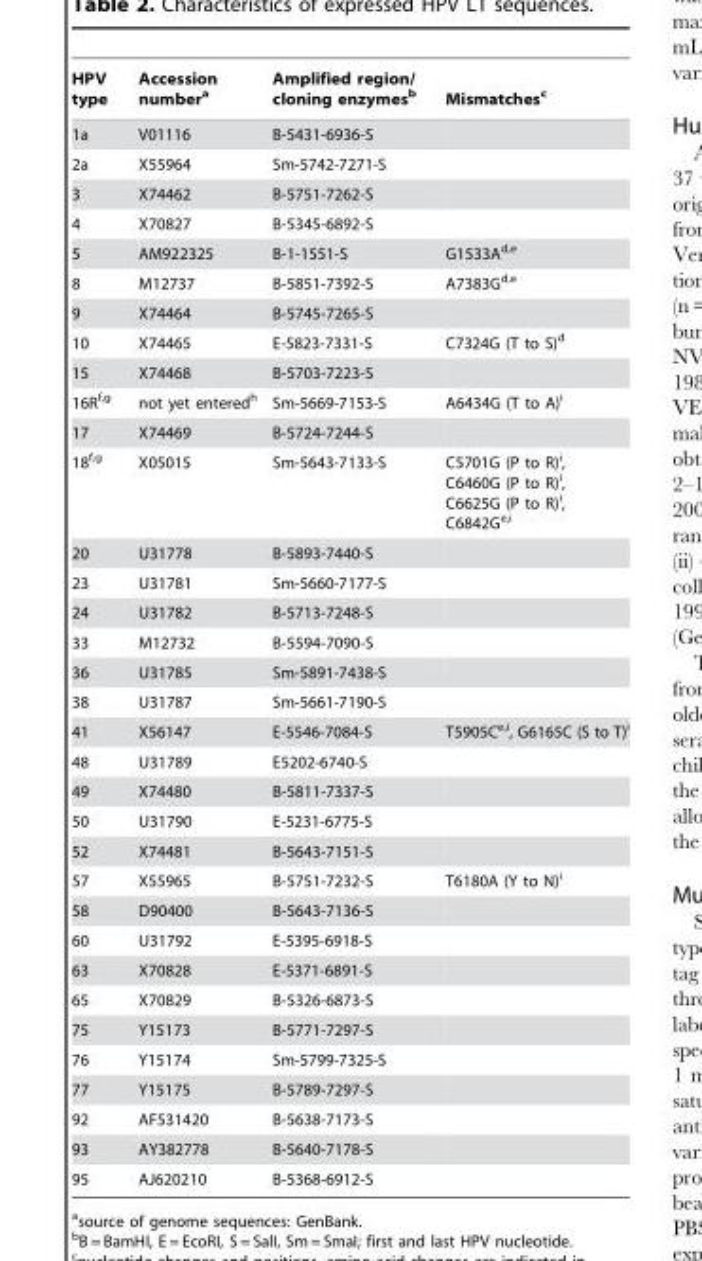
<table><thead><tr><td>HPV type</td><td>Accession number<sup>a</sup></td><td>Amplified region/ cloning enzymes<sup>b</sup></td><td>Mismatches<sup>c</sup></td></tr></thead><tbody><tr><td>1a</td><td>V01116</td><td>B-5431-6936-S</td><td></td></tr><tr><td>2a</td><td>X55964</td><td>Sm-5742-7271-S</td><td></td></tr><tr><td>3</td><td>X74462</td><td>B-5751-7262-S</td><td></td></tr><tr><td>4</td><td>X70827</td><td>B-5345-6892-S</td><td></td></tr><tr><td>5</td><td>AM922325</td><td>B-1-1551-S</td><td>G1533A<sup>d</sup>,<sup>e</sup></td></tr><tr><td>8</td><td>M12737</td><td>B-5851-7392-S</td><td>A7383G<sup>d</sup>,<sup>e</sup></td></tr><tr><td>9</td><td>X74464</td><td>B-5745-7265-S</td><td></td></tr><tr><td>10</td><td>X74465</td><td>E-5823-7331-S</td><td>C7324G (T to S)<sup>d</sup></td></tr><tr><td>15</td><td>X74468</td><td>B-5703-7223-S</td><td></td></tr><tr><td>16R<sup>f</sup>,<sup>g</sup></td><td>not yet entered<sup>h</sup></td><td>Sm-5669-7153-S</td><td>A6434G (T to A)<sup>i</sup></td></tr><tr><td>17</td><td>X74469</td><td>B-5724-7244-S</td><td></td></tr><tr><td>18<sup>f</sup>,<sup>g</sup></td><td>X05015</td><td>Sm-5643-7133-S</td><td>C5701G (P to R)<sup>i</sup>, C6460G (P to R)<sup>i</sup>, C6625G (P to R)<sup>i</sup>, C6842G<sup>e</sup>,<sup>i</sup></td></tr><tr><td>20</td><td>U31778</td><td>B-5893-7440-S</td><td></td></tr><tr><td>23</td><td>U31781</td><td>Sm-5660-7177-S</td><td></td></tr><tr><td>24</td><td>U31782</td><td>B-5713-7248-S</td><td></td></tr><tr><td>33</td><td>M12732</td><td>B-5594-7090-S</td><td></td></tr><tr><td>36</td><td>U31785</td><td>Sm-5891-7438-S</td><td></td></tr><tr><td>38</td><td>U31787</td><td>Sm-5661-7190-S</td><td></td></tr><tr><td>41</td><td>X56147</td><td>E-5546-7084-S</td><td>T5905C<sup>e</sup>,<sup>i</sup>, G6165C (S to T)<sup>i</sup></td></tr><tr><td>48</td><td>U31789</td><td>E5202-6740-S</td><td></td></tr><tr><td>49</td><td>X74480</td><td>B-5811-7337-S</td><td></td></tr><tr><td>50</td><td>U31790</td><td>E-5231-6775-S</td><td></td></tr><tr><td>52</td><td>X74481</td><td>B-5643-7151-S</td><td></td></tr><tr><td>57</td><td>X55965</td><td>B-5751-7232-S</td><td>T6180A (Y to N)<sup>i</sup></td></tr><tr><td>58</td><td>D90400</td><td>B-5643-7136-S</td><td></td></tr><tr><td>60</td><td>U31792</td><td>E-5395-6918-S</td><td></td></tr><tr><td>63</td><td>X70828</td><td>E-5371-6891-S</td><td></td></tr><tr><td>65</td><td>X70829</td><td>B-5326-6873-S</td><td></td></tr><tr><td>75</td><td>Y15173</td><td>B-5771-7297-S</td><td></td></tr><tr><td>76</td><td>Y15174</td><td>Sm-5799-7325-S</td><td></td></tr><tr><td>77</td><td>Y15175</td><td>B-5789-7297-S</td><td></td></tr><tr><td>92</td><td>AF531420</td><td>B-5638-7173-S</td><td></td></tr><tr><td>93</td><td>AY382778</td><td>B-5640-7178-S</td><td></td></tr><tr><td>95</td><td>AJ620210</td><td>B-5368-6912-S</td><td></td></tr></tbody></table>